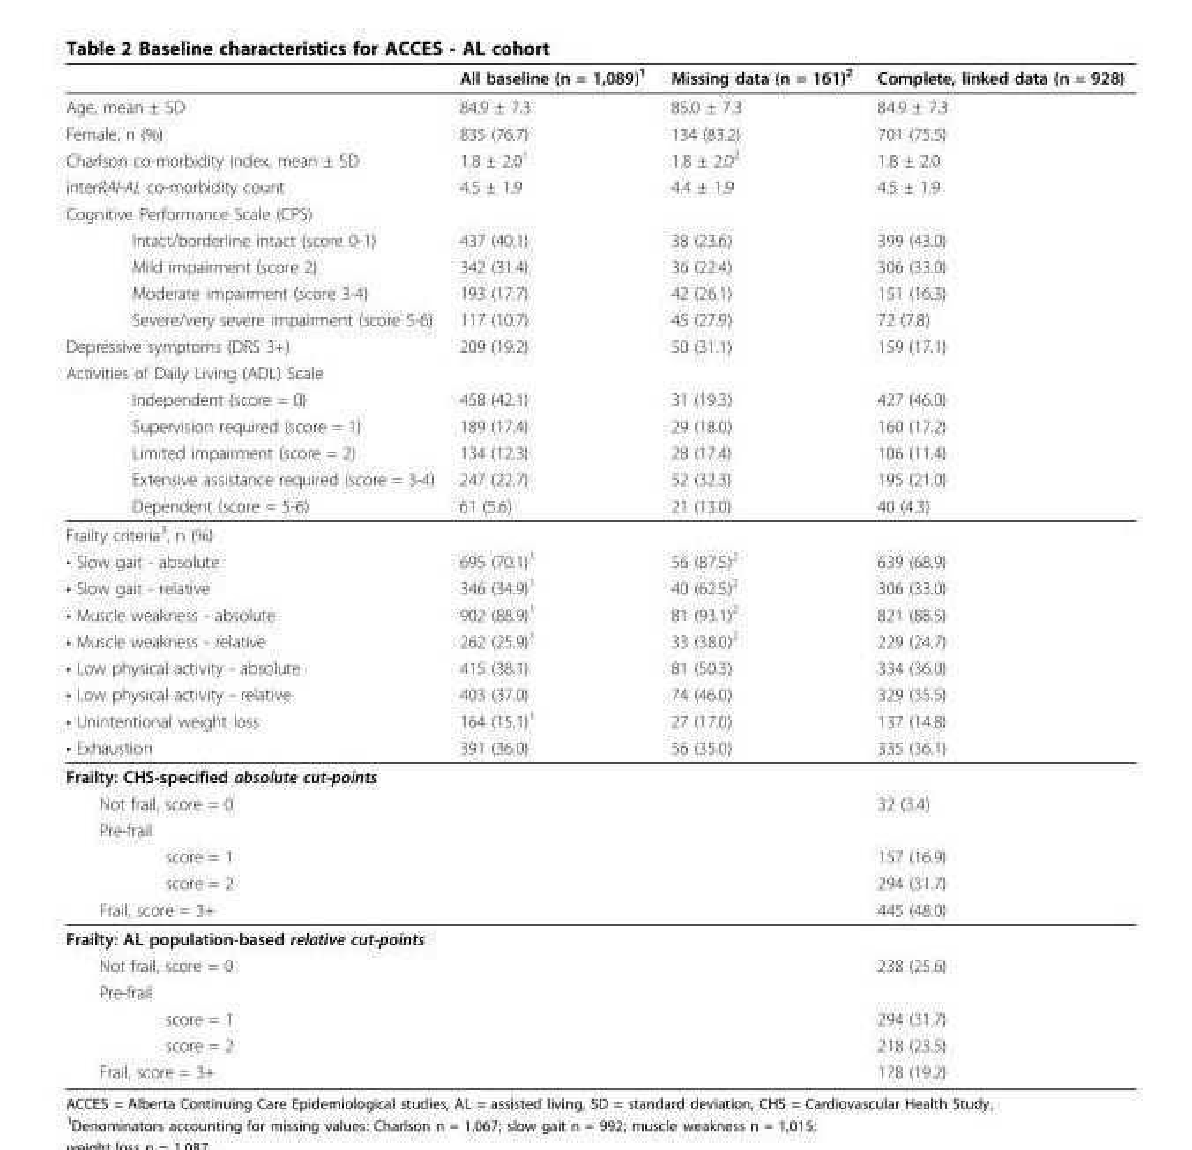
<table><thead><tr><td></td><td>All baseline (n = 1,089)<sup>1</sup></td><td>Missing data (n = 161)<sup>2</sup></td><td>Complete, linked data (n = 928)</td></tr></thead><tbody><tr><td>Age, mean ± SD</td><td>84.9 ± 7.3</td><td>85.0 ± 7.3</td><td>84.9 ± 7.3</td></tr><tr><td>Female, n (%)</td><td>835 (76.7)</td><td>134 (83.2)</td><td>701 (75.5)</td></tr><tr><td>Charlson co-morbidity index, mean ± SD</td><td>1.8 ± 2.0<sup>1</sup></td><td>1.8 ± 2.0<sup>2</sup></td><td>1.8 ± 2.0</td></tr><tr><td>interRAI-AL co-morbidity count</td><td>4.5 ± 1.9</td><td>4.4 ± 1.9</td><td>4.5 ± 1.9</td></tr><tr><td colspan="4">Cognitive Performance Scale (CPS)</td></tr><tr><td>Intact/borderline intact (score 0-1)</td><td>437 (40.1)</td><td>38 (23.6)</td><td>399 (43.0)</td></tr><tr><td>Mild impairment (score 2)</td><td>342 (31.4)</td><td>36 (22.4)</td><td>306 (33.0)</td></tr><tr><td>Moderate impairment (score 3-4)</td><td>193 (17.7)</td><td>42 (26.1)</td><td>151 (16.3)</td></tr><tr><td>Severe/very severe impairment (score 5-6)</td><td>117 (10.7)</td><td>45 (27.9)</td><td>72 (7.8)</td></tr><tr><td>Depressive symptoms (DRS 3+)</td><td>209 (19.2)</td><td>50 (31.1)</td><td>159 (17.1)</td></tr><tr><td colspan="4">Activities of Daily Living (ADL) Scale</td></tr><tr><td>Independent (score = 0)</td><td>458 (42.1)</td><td>31 (19.3)</td><td>427 (46.0)</td></tr><tr><td>Supervision required (score = 1)</td><td>189 (17.4)</td><td>29 (18.0)</td><td>160 (17.2)</td></tr><tr><td>Limited impairment (score = 2)</td><td>134 (12.3)</td><td>28 (17.4)</td><td>106 (11.4)</td></tr><tr><td>Extensive assistance required (score = 3-4)</td><td>247 (22.7)</td><td>52 (32.3)</td><td>195 (21.0)</td></tr><tr><td>Dependent (score = 5-6)</td><td>61 (5.6)</td><td>21 (13.0)</td><td>40 (4.3)</td></tr><tr><td colspan="4">Frailty criteria<sup>3</sup>, n (%)</td></tr><tr><td>• Slow gait - absolute</td><td>695 (70.1)<sup>1</sup></td><td>56 (87.5)<sup>2</sup></td><td>639 (68.9)</td></tr><tr><td>• Slow gait - relative</td><td>346 (34.9)<sup>1</sup></td><td>40 (62.5)<sup>2</sup></td><td>306 (33.0)</td></tr><tr><td>• Muscle weakness - absolute</td><td>902 (88.9)<sup>1</sup></td><td>81 (93.1)<sup>2</sup></td><td>821 (88.5)</td></tr><tr><td>• Muscle weakness - relative</td><td>262 (25.9)<sup>1</sup></td><td>33 (38.0)<sup>2</sup></td><td>229 (24.7)</td></tr><tr><td>• Low physical activity - absolute</td><td>415 (38.1)</td><td>81 (50.3)</td><td>334 (36.0)</td></tr><tr><td>• Low physical activity - relative</td><td>403 (37.0)</td><td>74 (46.0)</td><td>329 (35.5)</td></tr><tr><td>• Unintentional weight loss</td><td>164 (15.1)<sup>1</sup></td><td>27 (17.0)</td><td>137 (14.8)</td></tr><tr><td>• Exhaustion</td><td>391 (36.0)</td><td>56 (35.0)</td><td>335 (36.1)</td></tr><tr><td colspan="4">Frailty: CHS-specified absolute cut-points</td></tr><tr><td>Not frail, score = 0</td><td></td><td></td><td>32 (3.4)</td></tr><tr><td colspan="4">Pre-frail</td></tr><tr><td>score = 1</td><td></td><td></td><td>157 (16.9)</td></tr><tr><td>score = 2</td><td></td><td></td><td>294 (31.7)</td></tr><tr><td>Frail, score = 3+</td><td></td><td></td><td>445 (48.0)</td></tr><tr><td colspan="4">Frailty: AL population-based relative cut-points</td></tr><tr><td>Not frail, score = 0</td><td></td><td></td><td>238 (25.6)</td></tr><tr><td colspan="4">Pre-frail</td></tr><tr><td>score = 1</td><td></td><td></td><td>294 (31.7)</td></tr><tr><td>score = 2</td><td></td><td></td><td>218 (23.5)</td></tr><tr><td>Frail, score = 3+</td><td></td><td></td><td>178 (19.2)</td></tr></tbody></table>